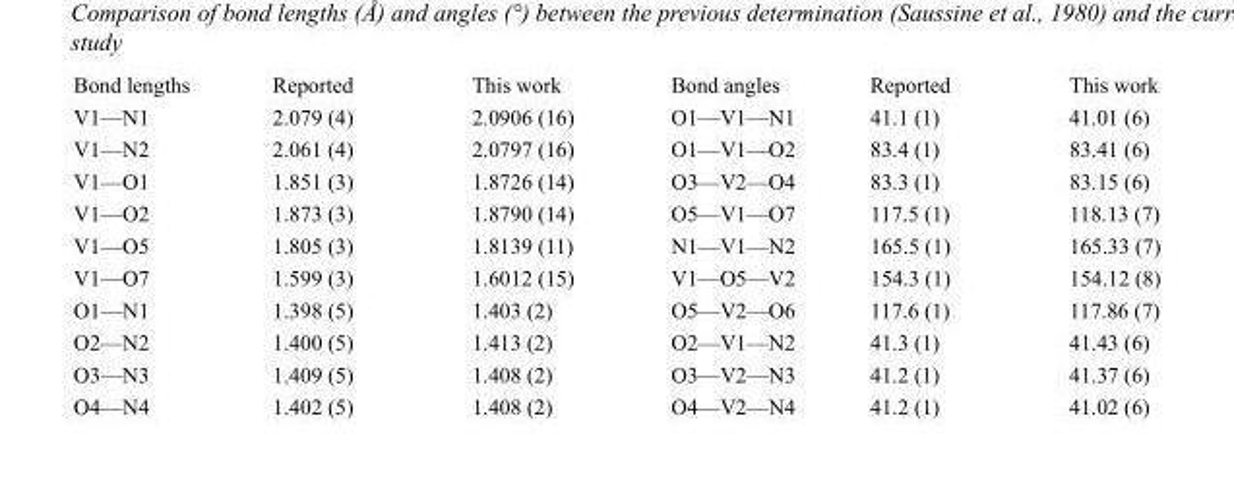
<table><thead><tr><td>Bond lengths</td><td>Reported</td><td>This work</td><td>Bond angles</td><td>Reported</td><td>This work</td></tr></thead><tbody><tr><td>V1—N1</td><td>2.079 (4)</td><td>2.0906 (16)</td><td>O1—V1—N1</td><td>41.1 (1)</td><td>41.01 (6)</td></tr><tr><td>V1—N2</td><td>2.061 (4)</td><td>2.0797 (16)</td><td>O1—V1—O2</td><td>83.4 (1)</td><td>83.41 (6)</td></tr><tr><td>V1—O1</td><td>1.851 (3)</td><td>1.8726 (14)</td><td>O3—V2—O4</td><td>83.3 (1)</td><td>83.15 (6)</td></tr><tr><td>V1—O2</td><td>1.873 (3)</td><td>1.8790 (14)</td><td>O5—V1—O7</td><td>117.5 (1)</td><td>118.13 (7)</td></tr><tr><td>V1—O5</td><td>1.805 (3)</td><td>1.8139 (11)</td><td>N1—V1—N2</td><td>165.5 (1)</td><td>165.33 (7)</td></tr><tr><td>V1—O7</td><td>1.599 (3)</td><td>1.6012 (15)</td><td>V1—O5—V2</td><td>154.3 (1)</td><td>154.12 (8)</td></tr><tr><td>O1—N1</td><td>1.398 (5)</td><td>1.403 (2)</td><td>O5—V2—O6</td><td>117.6 (1)</td><td>117.86 (7)</td></tr><tr><td>O2—N2</td><td>1.400 (5)</td><td>1.413 (2)</td><td>O2—V1—N2</td><td>41.3 (1)</td><td>41.43 (6)</td></tr><tr><td>O3—N3</td><td>1.409 (5)</td><td>1.408 (2)</td><td>O3—V2—N3</td><td>41.2 (1)</td><td>41.37 (6)</td></tr><tr><td>O4—N4</td><td>1.402 (5)</td><td>1.408 (2)</td><td>O4—V2—N4</td><td>41.2 (1)</td><td>41.02 (6)</td></tr></tbody></table>